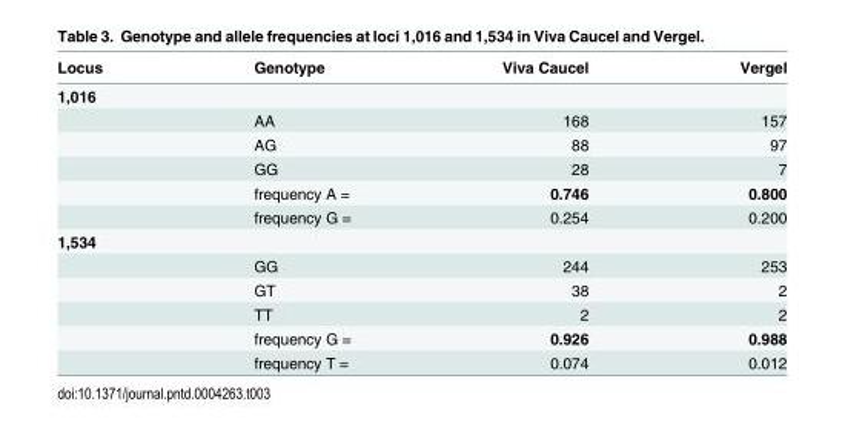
<table><thead><tr><td>Locus</td><td>Genotype</td><td>Viva Caucel</td><td>Vergel</td></tr></thead><tbody><tr><td colspan="4">1,016</td></tr><tr><td></td><td>AA</td><td>168</td><td>157</td></tr><tr><td></td><td>AG</td><td>88</td><td>97</td></tr><tr><td></td><td>GG</td><td>28</td><td>7</td></tr><tr><td></td><td>frequency A =</td><td>0.746</td><td>0.800</td></tr><tr><td></td><td>frequency G =</td><td>0.254</td><td>0.200</td></tr><tr><td colspan="4">1,534</td></tr><tr><td></td><td>GG</td><td>244</td><td>253</td></tr><tr><td></td><td>GT</td><td>38</td><td>2</td></tr><tr><td></td><td>TT</td><td>2</td><td>2</td></tr><tr><td></td><td>frequency G =</td><td>0.926</td><td>0.988</td></tr><tr><td></td><td>frequency T =</td><td>0.074</td><td>0.012</td></tr></tbody></table>